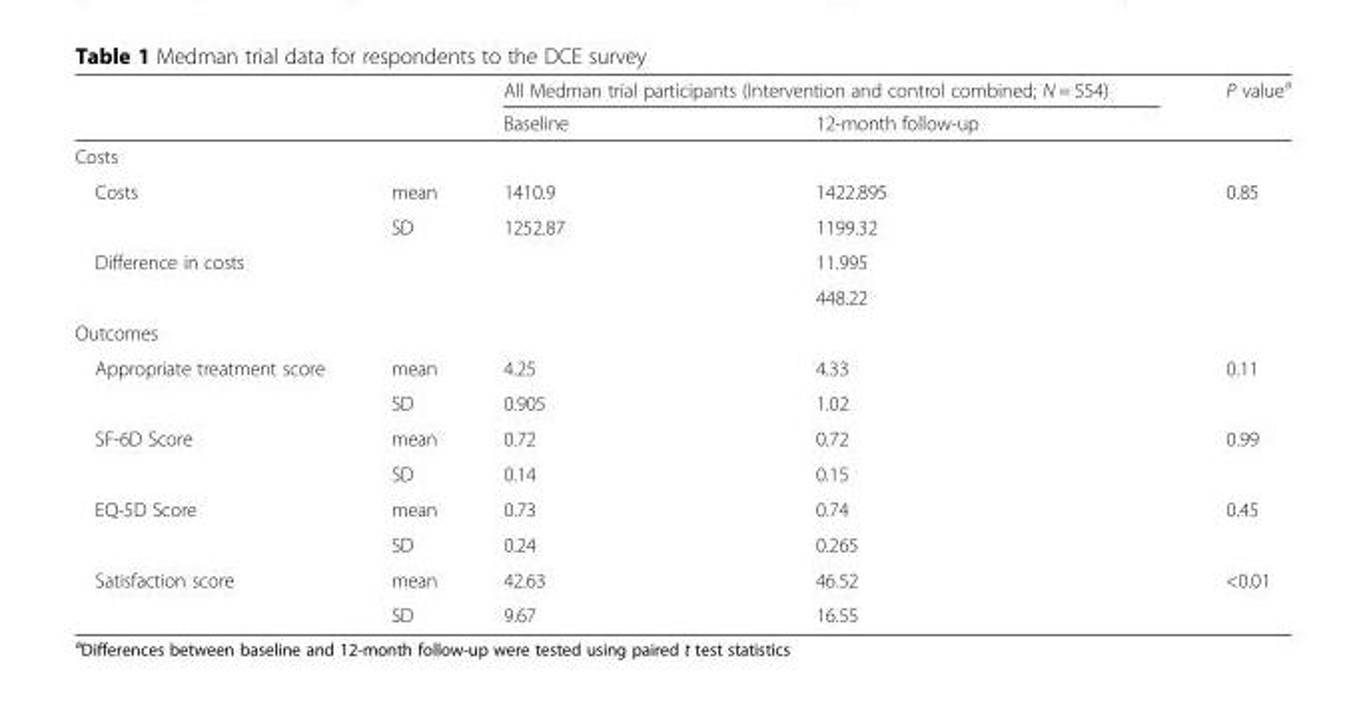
<table><thead><tr><td rowspan="2"></td><td rowspan="2"></td><td colspan="2">All Medman trial participants (Intervention and control combined; N = 554)</td><td rowspan="2">P value<sup>a</sup></td></tr><tr><td>Baseline</td><td>12-month follow-up</td></tr></thead><tbody><tr><td colspan="5">Costs</td></tr><tr><td rowspan="2">Costs</td><td>mean</td><td>1410.9</td><td>1422.895</td><td rowspan="2">0.85</td></tr><tr><td>SD</td><td>1252.87</td><td>1199.32</td></tr><tr><td rowspan="2">Difference in costs</td><td rowspan="2"></td><td rowspan="2"></td><td>11.995</td><td rowspan="2"></td></tr><tr><td>448.22</td></tr><tr><td colspan="5">Outcomes</td></tr><tr><td rowspan="2">Appropriate treatment score</td><td>mean</td><td>4.25</td><td>4.33</td><td rowspan="2">0.11</td></tr><tr><td>SD</td><td>0.905</td><td>1.02</td></tr><tr><td rowspan="2">SF-6D Score</td><td>mean</td><td>0.72</td><td>0.72</td><td rowspan="2">0.99</td></tr><tr><td>SD</td><td>0.14</td><td>0.15</td></tr><tr><td rowspan="2">EQ-5D Score</td><td>mean</td><td>0.73</td><td>0.74</td><td rowspan="2">0.45</td></tr><tr><td>SD</td><td>0.24</td><td>0.265</td></tr><tr><td rowspan="2">Satisfaction score</td><td>mean</td><td>42.63</td><td>46.52</td><td rowspan="2">&lt;0.01</td></tr><tr><td>SD</td><td>9.67</td><td>16.55</td></tr></tbody></table>